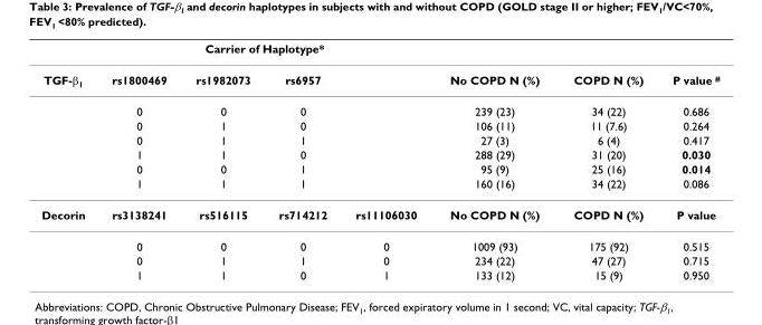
<table><thead><tr><td rowspan="2">TGF-β<sub>1</sub></td><td colspan="4">Carrier of Haplotype*</td><td rowspan="2">No COPD N (%)</td><td rowspan="2">COPD N (%)</td><td rowspan="2">P value <sup>#</sup></td></tr><tr><td>rs1800469</td><td>rs1982073</td><td>rs6957</td><td></td></tr></thead><tbody><tr><td></td><td>0</td><td>0</td><td>0</td><td></td><td>239 (23)</td><td>34 (22)</td><td>0.686</td></tr><tr><td></td><td>0</td><td>1</td><td>0</td><td></td><td>106 (11)</td><td>11 (7.6)</td><td>0.264</td></tr><tr><td></td><td>0</td><td>1</td><td>1</td><td></td><td>27 (3)</td><td>6 (4)</td><td>0.417</td></tr><tr><td></td><td>1</td><td>1</td><td>0</td><td></td><td>288 (29)</td><td>31 (20)</td><td>0.030</td></tr><tr><td></td><td>0</td><td>0</td><td>1</td><td></td><td>95 (9)</td><td>25 (16)</td><td>0.014</td></tr><tr><td></td><td>1</td><td>1</td><td>1</td><td></td><td>160 (16)</td><td>34 (22)</td><td>0.086</td></tr><tr><td rowspan="4">Decorin</td><td>rs3138241</td><td>rs516115</td><td>rs714212</td><td>rs11106030</td><td>No COPD N (%)</td><td>COPD N (%)</td><td>P value</td></tr><tr><td>0</td><td>0</td><td>0</td><td>0</td><td>1009 (93)</td><td>175 (92)</td><td>0.515</td></tr><tr><td>0</td><td>1</td><td>1</td><td>0</td><td>234 (22)</td><td>47 (27)</td><td>0.715</td></tr><tr><td>1</td><td>1</td><td>0</td><td>1</td><td>133 (12)</td><td>15 (9)</td><td>0.950</td></tr></tbody></table>